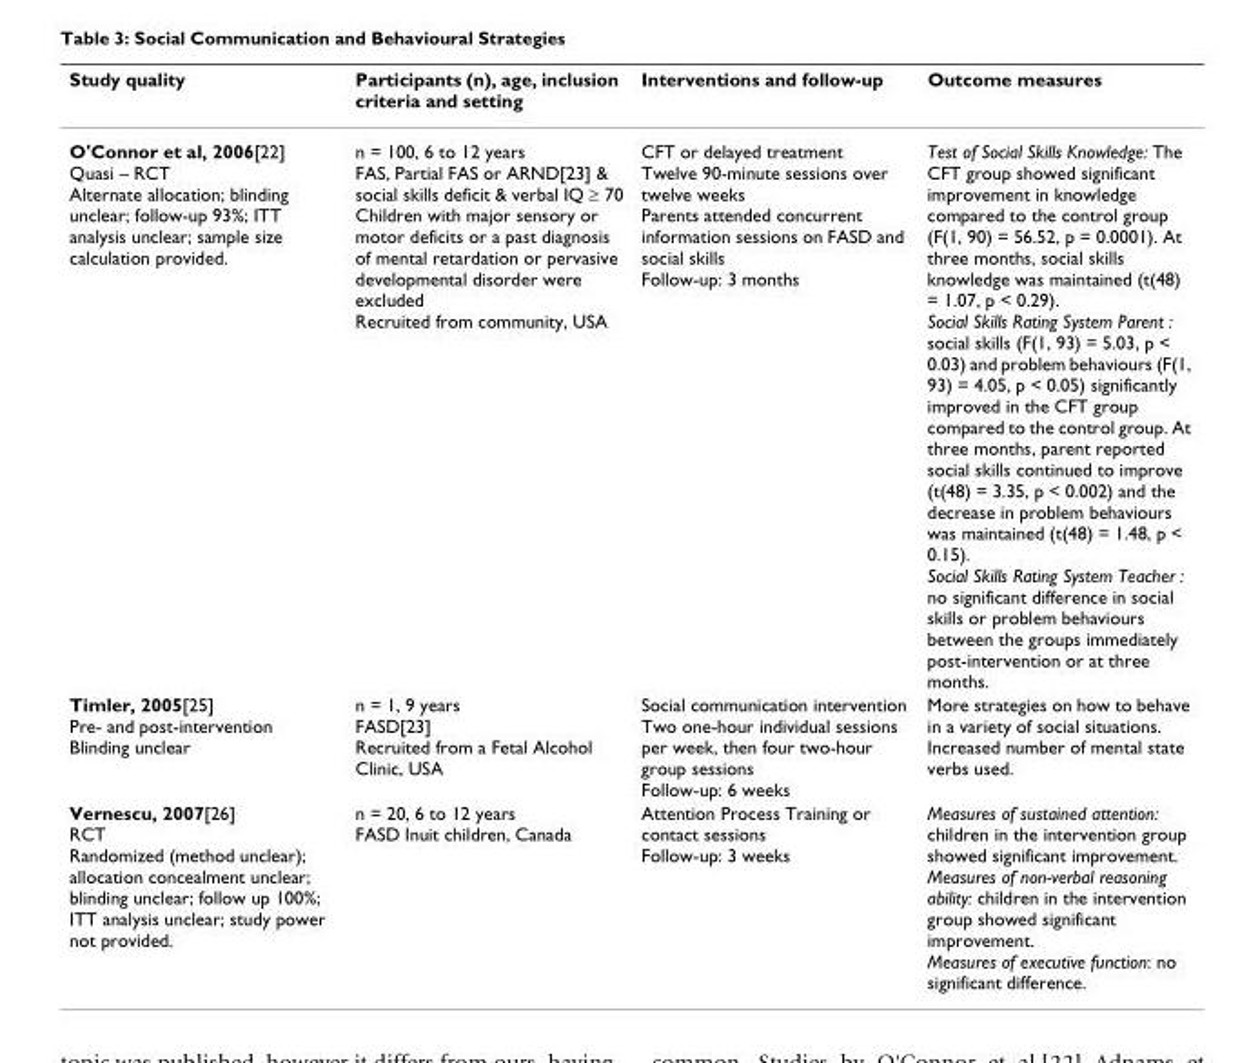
<table><thead><tr><td>Study quality</td><td>Participants (n), age, inclusion criteria and setting</td><td>Interventions and follow-up</td><td>Outcome measures</td></tr></thead><tbody><tr><td>O&#x27;Connor et al, 2006[22] Quasi – RCT Alternate allocation; blinding unclear; follow-up 93%; ITT analysis unclear; sample size calculation provided.</td><td>n = 100, 6 to 12 years FAS, Partial FAS or ARND[23] &amp; social skills deficit &amp; verbal IQ ≥ 70 Children with major sensory or motor deficits or a past diagnosis of mental retardation or pervasive developmental disorder were excluded Recruited from community, USA</td><td>CFT or delayed treatment Twelve 90-minute sessions over twelve weeks Parents attended concurrent information sessions on FASD and social skills Follow-up: 3 months</td><td>Test of Social Skills Knowledge: The CFT group showed significant improvement in knowledge compared to the control group (F(1, 90) = 56.52, p = 0.0001). At three months, social skills knowledge was maintained (t(48) = 1.07, p &lt; 0.29). Social Skills Rating System Parent : social skills (F(1, 93) = 5.03, p &lt; 0.03) and problem behaviours (F(1, 93) = 4.05, p &lt; 0.05) significantly improved in the CFT group compared to the control group. At three months, parent reported social skills continued to improve (t(48) = 3.35, p &lt; 0.002) and the decrease in problem behaviours was maintained (t(48) = 1.48, p &lt; 0.15). Social Skills Rating System Teacher : no significant difference in social skills or problem behaviours between the groups immediately post-intervention or at three months.</td></tr><tr><td>Timler, 2005[25] Pre- and post-intervention Blinding unclear</td><td>n = 1, 9 years FASD[23] Recruited from a Fetal Alcohol Clinic, USA</td><td>Social communication intervention Two one-hour individual sessions per week, then four two-hour group sessions Follow-up: 6 weeks</td><td>More strategies on how to behave in a variety of social situations. Increased number of mental state verbs used.</td></tr><tr><td>Vernescu, 2007[26] RCT Randomized (method unclear); allocation concealment unclear; blinding unclear; follow up 100%; ITT analysis unclear; study power not provided.</td><td>n = 20, 6 to 12 years FASD Inuit children, Canada</td><td>Attention Process Training or contact sessions Follow-up: 3 weeks</td><td>Measures of sustained attention: children in the intervention group showed significant improvement. Measures of non-verbal reasoning ability: children in the intervention group showed significant improvement. Measures of executive function: no significant difference.</td></tr></tbody></table>